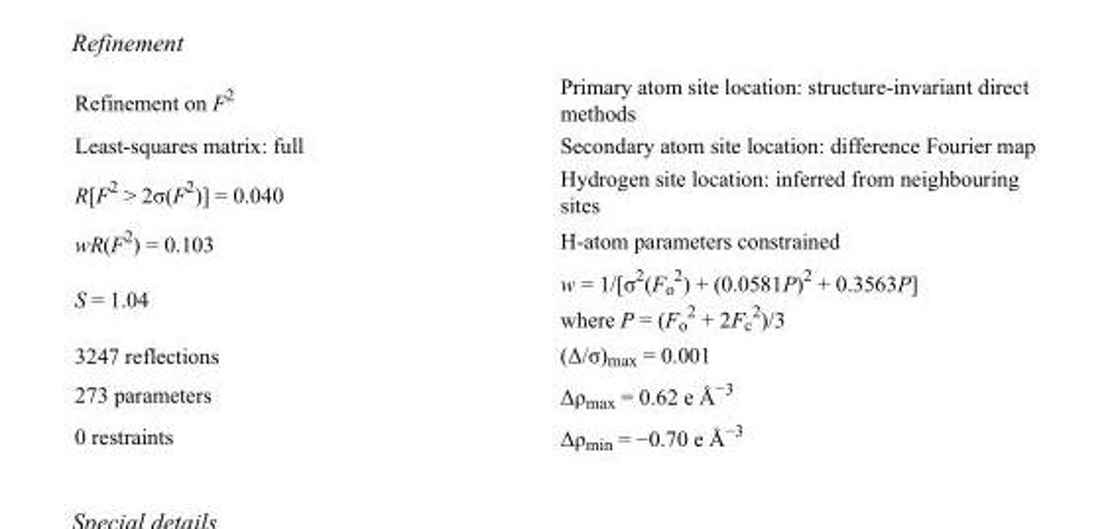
<table><tbody><tr><td>Refinement on F<sup>2</sup></td><td>Primary atom site location: structure-invariant direct methods</td></tr><tr><td>Least-squares matrix: full</td><td>Secondary atom site location: difference Fourier map</td></tr><tr><td>R[F<sup>2</sup> &gt; 2σ(F<sup>2</sup>)] = 0.040</td><td>Hydrogen site location: inferred from neighbouring sites</td></tr><tr><td>wR(F<sup>2</sup>) = 0.103</td><td>H-atom parameters constrained</td></tr><tr><td>S = 1.04</td><td>w = 1/[σ<sup>2</sup>(F<sub>o</sub> <sup>2</sup>) + (0.0581P)<sup>2</sup> + 0.3563P] where P = (F<sub>o</sub> <sup>2</sup> + 2F<sub>c</sub> <sup>2</sup>)/3</td></tr><tr><td>3247 reflections</td><td>(Δ/σ)<sub>max</sub> = 0.001</td></tr><tr><td>273 parameters</td><td>Δρ<sub>max</sub> = 0.62 e Å<sup>−3</sup></td></tr><tr><td>0 restraints</td><td>Δρ<sub>min</sub> = −0.70 e Å<sup>−3</sup></td></tr></tbody></table>